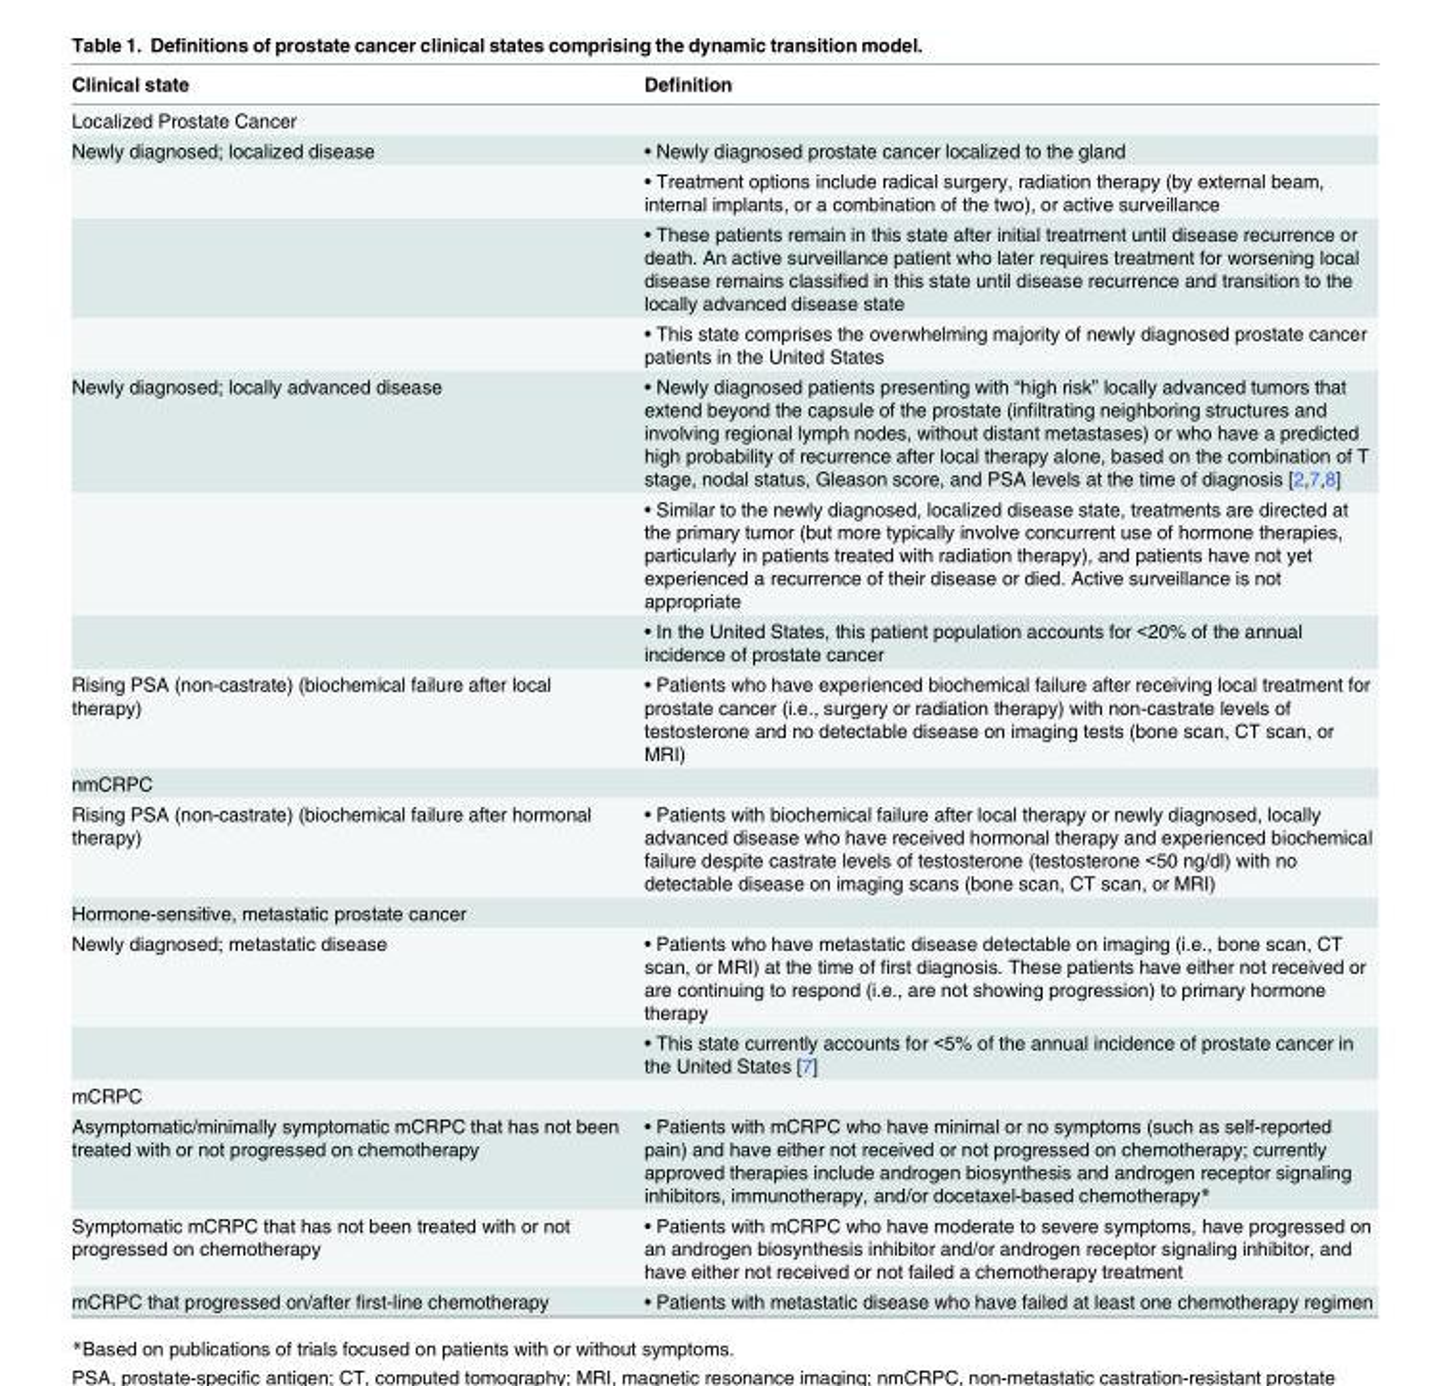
<table><thead><tr><td>Clinical state</td><td>Definition</td></tr></thead><tbody><tr><td colspan="2">Localized Prostate Cancer</td></tr><tr><td rowspan="4">Newly diagnosed; localized disease</td><td>• Newly diagnosed prostate cancer localized to the gland</td></tr><tr><td>• Treatment options include radical surgery, radiation therapy (by external beam, internal implants, or a combination of the two), or active surveillance</td></tr><tr><td>• These patients remain in this state after initial treatment until disease recurrence or death. An active surveillance patient who later requires treatment for worsening local disease remains classified in this state until disease recurrence and transition to the locally advanced disease state</td></tr><tr><td>• This state comprises the overwhelming majority of newly diagnosed prostate cancer patients in the United States</td></tr><tr><td rowspan="3">Newly diagnosed; locally advanced disease</td><td>• Newly diagnosed patients presenting with “high risk” locally advanced tumors that extend beyond the capsule of the prostate (infiltrating neighboring structures and involving regional lymph nodes, without distant metastases) or who have a predicted high probability of recurrence after local therapy alone, based on the combination of T stage, nodal status, Gleason score, and PSA levels at the time of diagnosis [2,7,8]</td></tr><tr><td>• Similar to the newly diagnosed, localized disease state, treatments are directed at the primary tumor (but more typically involve concurrent use of hormone therapies, particularly in patients treated with radiation therapy), and patients have not yet experienced a recurrence of their disease or died. Active surveillance is not appropriate</td></tr><tr><td>• In the United States, this patient population accounts for &lt;20% of the annual incidence of prostate cancer</td></tr><tr><td>Rising PSA (non-castrate) (biochemical failure after local therapy)</td><td>• Patients who have experienced biochemical failure after receiving local treatment for prostate cancer (i.e., surgery or radiation therapy) with non-castrate levels of testosterone and no detectable disease on imaging tests (bone scan, CT scan, or MRI)</td></tr><tr><td colspan="2">nmCRPC</td></tr><tr><td>Rising PSA (non-castrate) (biochemical failure after hormonal therapy)</td><td>• Patients with biochemical failure after local therapy or newly diagnosed, locally advanced disease who have received hormonal therapy and experienced biochemical failure despite castrate levels of testosterone (testosterone &lt;50 ng/dl) with no detectable disease on imaging scans (bone scan, CT scan, or MRI)</td></tr><tr><td colspan="2">Hormone-sensitive, metastatic prostate cancer</td></tr><tr><td rowspan="2">Newly diagnosed; metastatic disease</td><td>• Patients who have metastatic disease detectable on imaging (i.e., bone scan, CT scan, or MRI) at the time of first diagnosis. These patients have either not received or are continuing to respond (i.e., are not showing progression) to primary hormone therapy</td></tr><tr><td>• This state currently accounts for &lt;5% of the annual incidence of prostate cancer in the United States [7]</td></tr><tr><td colspan="2">mCRPC</td></tr><tr><td>Asymptomatic/minimally symptomatic mCRPC that has not been treated with or not progressed on chemotherapy</td><td>• Patients with mCRPC who have minimal or no symptoms (such as self-reported pain) and have either not received or not progressed on chemotherapy; currently approved therapies include androgen biosynthesis and androgen receptor signaling inhibitors, immunotherapy, and/or docetaxel-based chemotherapy*</td></tr><tr><td>Symptomatic mCRPC that has not been treated with or not progressed on chemotherapy</td><td>• Patients with mCRPC who have moderate to severe symptoms, have progressed on an androgen biosynthesis inhibitor and/or androgen receptor signaling inhibitor, and have either not received or not failed a chemotherapy treatment</td></tr><tr><td>mCRPC that progressed on/after first-line chemotherapy</td><td>• Patients with metastatic disease who have failed at least one chemotherapy regimen</td></tr></tbody></table>